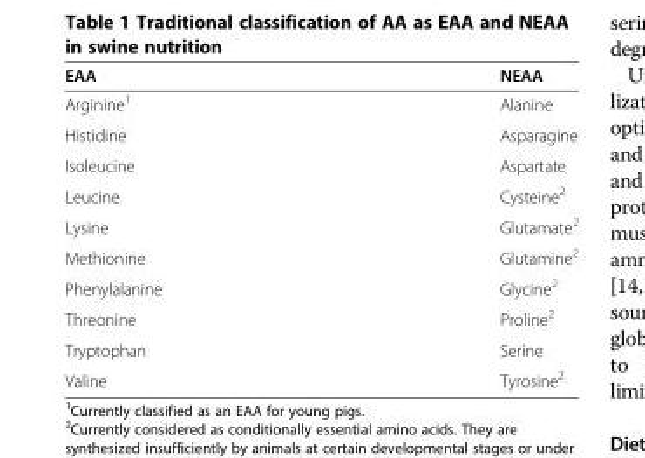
<table><thead><tr><td>EAA</td><td>NEAA</td></tr></thead><tbody><tr><td>Arginine<sup>1</sup></td><td>Alanine</td></tr><tr><td>Histidine</td><td>Asparagine</td></tr><tr><td>Isoleucine</td><td>Aspartate</td></tr><tr><td>Leucine</td><td>Cysteine<sup>2</sup></td></tr><tr><td>Lysine</td><td>Glutamate<sup>2</sup></td></tr><tr><td>Methionine</td><td>Glutamine<sup>2</sup></td></tr><tr><td>Phenylalanine</td><td>Glycine<sup>2</sup></td></tr><tr><td>Threonine</td><td>Proline<sup>2</sup></td></tr><tr><td>Tryptophan</td><td>Serine</td></tr><tr><td>Valine</td><td>Tyrosine<sup>2</sup></td></tr></tbody></table>